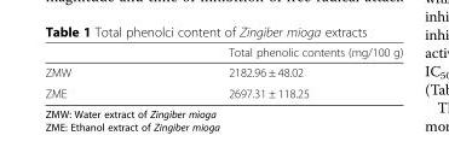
<table><thead><tr><td></td><td>Total phenolic contents (mg/100 g)</td></tr></thead><tbody><tr><td>ZMW</td><td>2182.96 ± 48.02</td></tr><tr><td>ZME</td><td>2697.31 ± 118.25</td></tr></tbody></table>